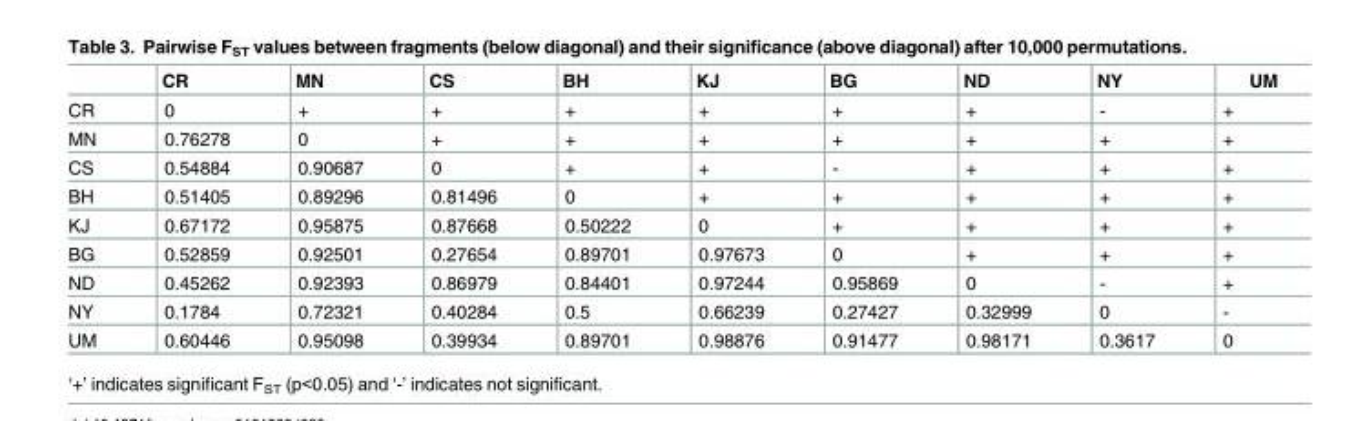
<table><thead><tr><td></td><td>CR</td><td>MN</td><td>CS</td><td>BH</td><td>KJ</td><td>BG</td><td>ND</td><td>NY</td><td>UM</td></tr></thead><tbody><tr><td>CR</td><td>0</td><td>+</td><td>+</td><td>+</td><td>+</td><td>+</td><td>+</td><td>-</td><td>+</td></tr><tr><td>MN</td><td>0.76278</td><td>0</td><td>+</td><td>+</td><td>+</td><td>+</td><td>+</td><td>+</td><td>+</td></tr><tr><td>CS</td><td>0.54884</td><td>0.90687</td><td>0</td><td>+</td><td>+</td><td>-</td><td>+</td><td>+</td><td>+</td></tr><tr><td>BH</td><td>0.51405</td><td>0.89296</td><td>0.81496</td><td>0</td><td>+</td><td>+</td><td>+</td><td>+</td><td>+</td></tr><tr><td>KJ</td><td>0.67172</td><td>0.95875</td><td>0.87668</td><td>0.50222</td><td>0</td><td>+</td><td>+</td><td>+</td><td>+</td></tr><tr><td>BG</td><td>0.52859</td><td>0.92501</td><td>0.27654</td><td>0.89701</td><td>0.97673</td><td>0</td><td>+</td><td>+</td><td>+</td></tr><tr><td>ND</td><td>0.45262</td><td>0.92393</td><td>0.86979</td><td>0.84401</td><td>0.97244</td><td>0.95869</td><td>0</td><td>-</td><td>+</td></tr><tr><td>NY</td><td>0.1784</td><td>0.72321</td><td>0.40284</td><td>0.5</td><td>0.66239</td><td>0.27427</td><td>0.32999</td><td>0</td><td>-</td></tr><tr><td>UM</td><td>0.60446</td><td>0.95098</td><td>0.39934</td><td>0.89701</td><td>0.98876</td><td>0.91477</td><td>0.98171</td><td>0.3617</td><td>0</td></tr></tbody></table>